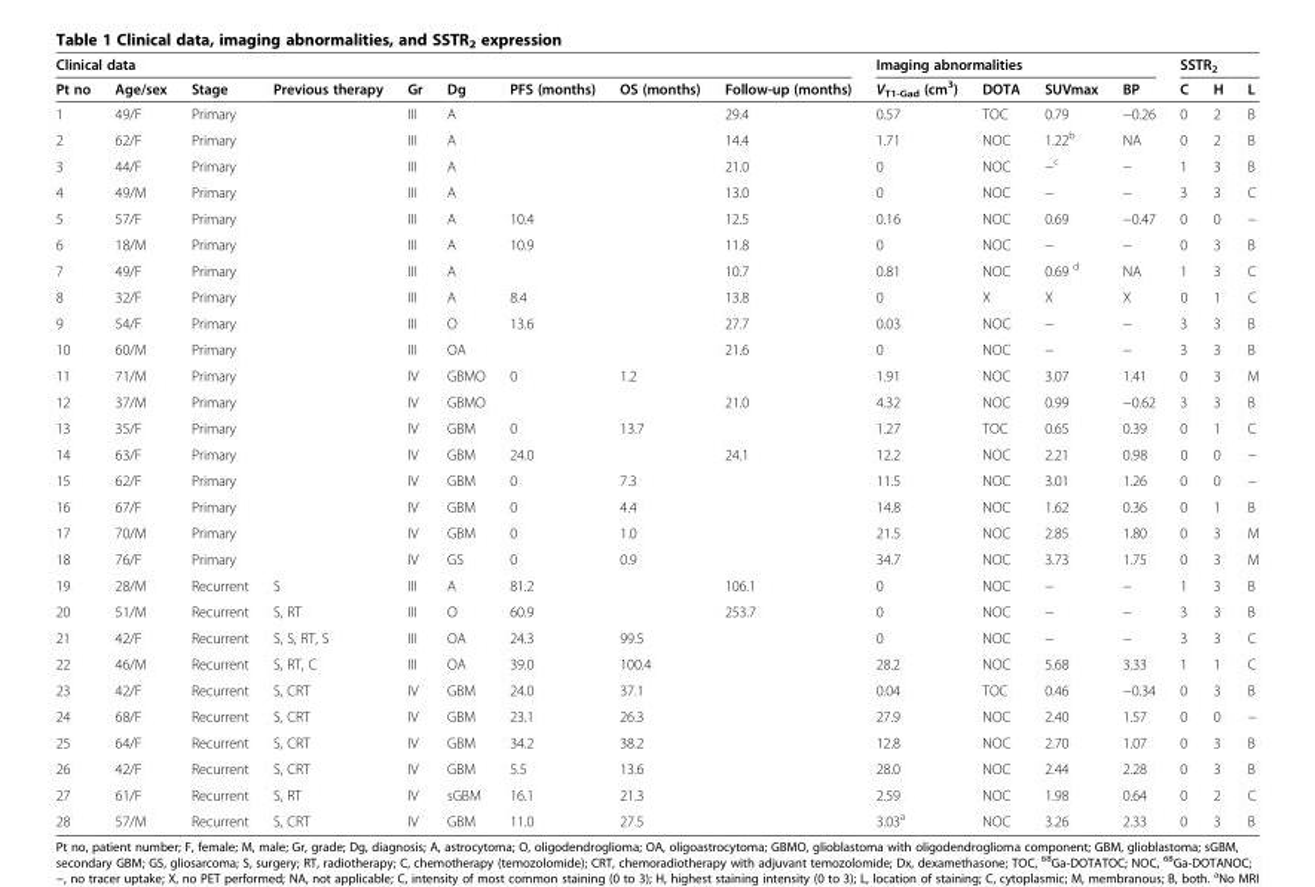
<table><thead><tr><td colspan="9">Clinical data</td><td colspan="4">Imaging abnormalities</td><td colspan="3">SSTR<sub>2</sub></td></tr><tr><td>Pt no</td><td>Age/sex</td><td>Stage</td><td>Previous therapy</td><td>Gr</td><td>Dg</td><td>PFS (months)</td><td>OS (months)</td><td>Follow-up (months)</td><td>V<sub>T1-Gad</sub> (cm<sup>3</sup>)</td><td>DOTA</td><td>SUVmax</td><td>BP</td><td>C</td><td>H</td><td>L</td></tr></thead><tbody><tr><td>1</td><td>49/F</td><td>Primary</td><td></td><td>III</td><td>A</td><td></td><td></td><td>29.4</td><td>0.57</td><td>TOC</td><td>0.79</td><td>−0.26</td><td>0</td><td>2</td><td>B</td></tr><tr><td>2</td><td>62/F</td><td>Primary</td><td></td><td>III</td><td>A</td><td></td><td></td><td>14.4</td><td>1.71</td><td>NOC</td><td>1.22<sup>b</sup></td><td>NA</td><td>0</td><td>2</td><td>B</td></tr><tr><td>3</td><td>44/F</td><td>Primary</td><td></td><td>III</td><td>A</td><td></td><td></td><td>21.0</td><td>0</td><td>NOC</td><td>−<sup>c</sup></td><td>−</td><td>1</td><td>3</td><td>B</td></tr><tr><td>4</td><td>49/M</td><td>Primary</td><td></td><td>III</td><td>A</td><td></td><td></td><td>13.0</td><td>0</td><td>NOC</td><td>−</td><td>−</td><td>3</td><td>3</td><td>C</td></tr><tr><td>5</td><td>57/F</td><td>Primary</td><td></td><td>III</td><td>A</td><td>10.4</td><td></td><td>12.5</td><td>0.16</td><td>NOC</td><td>0.69</td><td>−0.47</td><td>0</td><td>0</td><td>−</td></tr><tr><td>6</td><td>18/M</td><td>Primary</td><td></td><td>III</td><td>A</td><td>10.9</td><td></td><td>11.8</td><td>0</td><td>NOC</td><td>−</td><td>−</td><td>0</td><td>3</td><td>B</td></tr><tr><td>7</td><td>49/F</td><td>Primary</td><td></td><td>III</td><td>A</td><td></td><td></td><td>10.7</td><td>0.81</td><td>NOC</td><td>0.69 <sup>d</sup></td><td>NA</td><td>1</td><td>3</td><td>C</td></tr><tr><td>8</td><td>32/F</td><td>Primary</td><td></td><td>III</td><td>A</td><td>8.4</td><td></td><td>13.8</td><td>0</td><td>X</td><td>X</td><td>X</td><td>0</td><td>1</td><td>C</td></tr><tr><td>9</td><td>54/F</td><td>Primary</td><td></td><td>III</td><td>O</td><td>13.6</td><td></td><td>27.7</td><td>0.03</td><td>NOC</td><td>−</td><td>−</td><td>3</td><td>3</td><td>B</td></tr><tr><td>10</td><td>60/M</td><td>Primary</td><td></td><td>III</td><td>OA</td><td></td><td></td><td>21.6</td><td>0</td><td>NOC</td><td>−</td><td>−</td><td>3</td><td>3</td><td>B</td></tr><tr><td>11</td><td>71/M</td><td>Primary</td><td></td><td>IV</td><td>GBMO</td><td>0</td><td>1.2</td><td></td><td>1.91</td><td>NOC</td><td>3.07</td><td>1.41</td><td>0</td><td>3</td><td>M</td></tr><tr><td>12</td><td>37/M</td><td>Primary</td><td></td><td>IV</td><td>GBMO</td><td></td><td></td><td>21.0</td><td>4.32</td><td>NOC</td><td>0.99</td><td>−0.62</td><td>3</td><td>3</td><td>B</td></tr><tr><td>13</td><td>35/F</td><td>Primary</td><td></td><td>IV</td><td>GBM</td><td>0</td><td>13.7</td><td></td><td>1.27</td><td>TOC</td><td>0.65</td><td>0.39</td><td>0</td><td>1</td><td>C</td></tr><tr><td>14</td><td>63/F</td><td>Primary</td><td></td><td>IV</td><td>GBM</td><td>24.0</td><td></td><td>24.1</td><td>12.2</td><td>NOC</td><td>2.21</td><td>0.98</td><td>0</td><td>0</td><td>−</td></tr><tr><td>15</td><td>62/F</td><td>Primary</td><td></td><td>IV</td><td>GBM</td><td>0</td><td>7.3</td><td></td><td>11.5</td><td>NOC</td><td>3.01</td><td>1.26</td><td>0</td><td>0</td><td>−</td></tr><tr><td>16</td><td>67/F</td><td>Primary</td><td></td><td>IV</td><td>GBM</td><td>0</td><td>4.4</td><td></td><td>14.8</td><td>NOC</td><td>1.62</td><td>0.36</td><td>0</td><td>1</td><td>B</td></tr><tr><td>17</td><td>70/M</td><td>Primary</td><td></td><td>IV</td><td>GBM</td><td>0</td><td>1.0</td><td></td><td>21.5</td><td>NOC</td><td>2.85</td><td>1.80</td><td>0</td><td>3</td><td>M</td></tr><tr><td>18</td><td>76/F</td><td>Primary</td><td></td><td>IV</td><td>GS</td><td>0</td><td>0.9</td><td></td><td>34.7</td><td>NOC</td><td>3.73</td><td>1.75</td><td>0</td><td>3</td><td>M</td></tr><tr><td>19</td><td>28/M</td><td>Recurrent</td><td>S</td><td>III</td><td>A</td><td>81.2</td><td></td><td>106.1</td><td>0</td><td>NOC</td><td>−</td><td>−</td><td>1</td><td>3</td><td>B</td></tr><tr><td>20</td><td>51/M</td><td>Recurrent</td><td>S, RT</td><td>III</td><td>O</td><td>60.9</td><td></td><td>253.7</td><td>0</td><td>NOC</td><td>−</td><td>−</td><td>3</td><td>3</td><td>B</td></tr><tr><td>21</td><td>42/F</td><td>Recurrent</td><td>S, S, RT, S</td><td>III</td><td>OA</td><td>24.3</td><td>99.5</td><td></td><td>0</td><td>NOC</td><td>−</td><td>−</td><td>3</td><td>3</td><td>C</td></tr><tr><td>22</td><td>46/M</td><td>Recurrent</td><td>S, RT, C</td><td>III</td><td>OA</td><td>39.0</td><td>100.4</td><td></td><td>28.2</td><td>NOC</td><td>5.68</td><td>3.33</td><td>1</td><td>1</td><td>C</td></tr><tr><td>23</td><td>42/F</td><td>Recurrent</td><td>S, CRT</td><td>IV</td><td>GBM</td><td>24.0</td><td>37.1</td><td></td><td>0.04</td><td>TOC</td><td>0.46</td><td>−0.34</td><td>0</td><td>3</td><td>B</td></tr><tr><td>24</td><td>68/F</td><td>Recurrent</td><td>S, CRT</td><td>IV</td><td>GBM</td><td>23.1</td><td>26.3</td><td></td><td>27.9</td><td>NOC</td><td>2.40</td><td>1.57</td><td>0</td><td>0</td><td>−</td></tr><tr><td>25</td><td>64/F</td><td>Recurrent</td><td>S, CRT</td><td>IV</td><td>GBM</td><td>34.2</td><td>38.2</td><td></td><td>12.8</td><td>NOC</td><td>2.70</td><td>1.07</td><td>0</td><td>3</td><td>B</td></tr><tr><td>26</td><td>42/F</td><td>Recurrent</td><td>S, CRT</td><td>IV</td><td>GBM</td><td>5.5</td><td>13.6</td><td></td><td>28.0</td><td>NOC</td><td>2.44</td><td>2.28</td><td>0</td><td>3</td><td>B</td></tr><tr><td>27</td><td>61/F</td><td>Recurrent</td><td>S, RT</td><td>IV</td><td>sGBM</td><td>16.1</td><td>21.3</td><td></td><td>2.59</td><td>NOC</td><td>1.98</td><td>0.64</td><td>0</td><td>2</td><td>C</td></tr><tr><td>28</td><td>57/M</td><td>Recurrent</td><td>S, CRT</td><td>IV</td><td>GBM</td><td>11.0</td><td>27.5</td><td></td><td>3.03<sup>a</sup></td><td>NOC</td><td>3.26</td><td>2.33</td><td>0</td><td>3</td><td>B</td></tr></tbody></table>